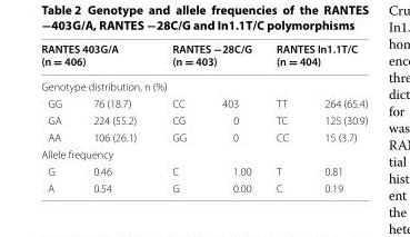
<table><thead><tr><td colspan="2">RANTES 403G/A (n = 406)</td><td colspan="2">RANTES −28C/G (n = 403)</td><td colspan="2">RANTES In1.1T/C (n = 404)</td></tr><tr><td colspan="6">Genotype distribution, n (%)</td></tr><tr><td>GG</td><td>76 (18.7)</td><td>CC</td><td>403</td><td>TT</td><td>264 (65.4)</td></tr></thead><tbody><tr><td>GA</td><td>224 (55.2)</td><td>CG</td><td>0</td><td>TC</td><td>125 (30.9)</td></tr><tr><td>AA</td><td>106 (26.1)</td><td>GG</td><td>0</td><td>CC</td><td>15 (3.7)</td></tr><tr><td colspan="6">Allele frequency</td></tr><tr><td>G</td><td>0.46</td><td>C</td><td>1.00</td><td>T</td><td>0.81</td></tr><tr><td>A</td><td>0.54</td><td>G</td><td>0.00</td><td>C</td><td>0.19</td></tr></tbody></table>